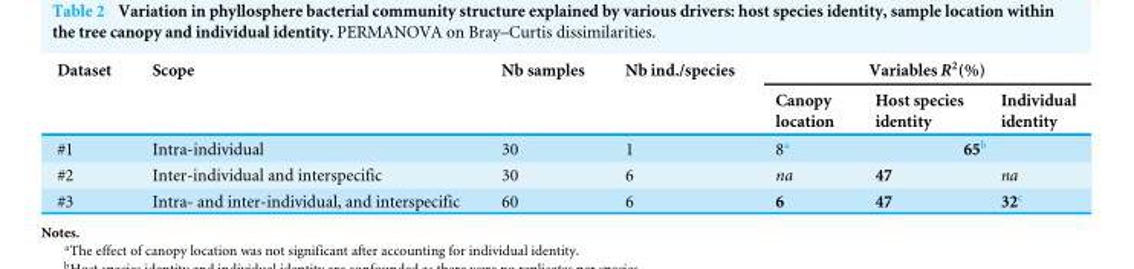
<table><thead><tr><td rowspan="2">Dataset</td><td rowspan="2">Scope</td><td rowspan="2">Nb samples</td><td rowspan="2">Nb ind./species</td><td colspan="3">Variables R<sup>2</sup>(%)</td></tr><tr><td>Canopy location</td><td>Host species identity</td><td>Individual identity</td></tr></thead><tbody><tr><td>#1</td><td>Intra-individual</td><td>30</td><td>1</td><td>8<sup>a</sup></td><td colspan="2">65<sup>b</sup></td></tr><tr><td>#2</td><td>Inter-individual and interspecific</td><td>30</td><td>6</td><td>na</td><td>47</td><td>na</td></tr><tr><td>#3</td><td>Intra- and inter-individual, and interspecific</td><td>60</td><td>6</td><td>6</td><td>47</td><td>32<sup>c</sup></td></tr></tbody></table>